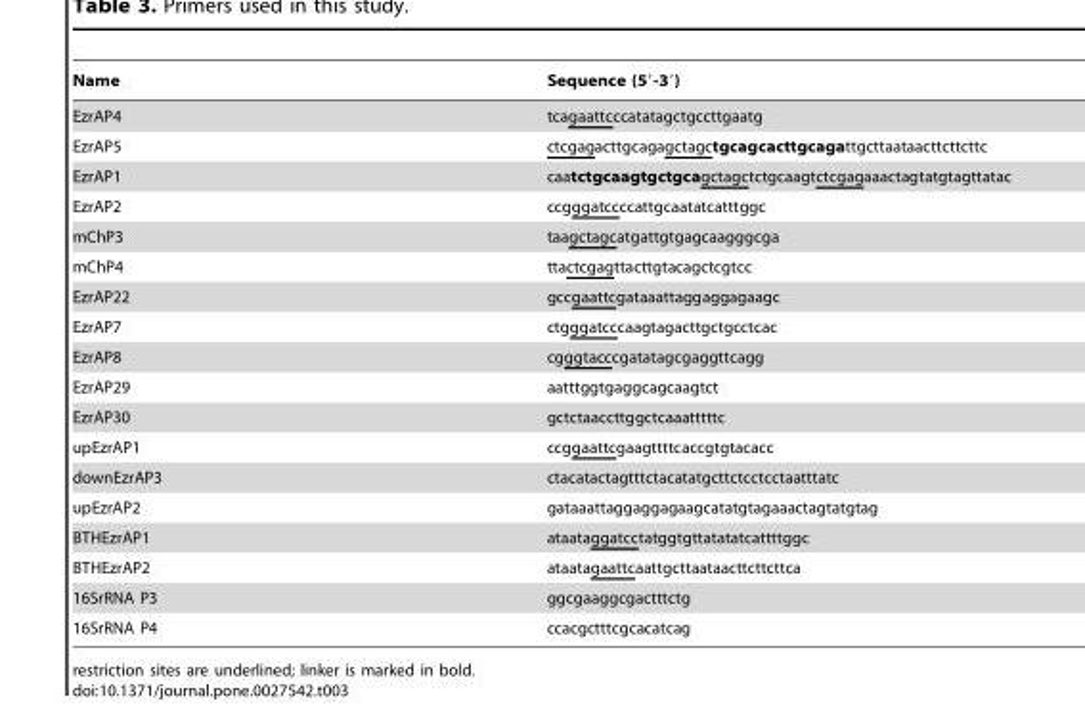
<table><thead><tr><td>Name</td><td>Sequence (5′-3′)</td></tr></thead><tbody><tr><td>EzrAP4</td><td>tcagaattcccatatagctgccttgaatg</td></tr><tr><td>EzrAP5</td><td>ctcgagacttgcagagctagctgcagcacttgcagattgcttaataacttcttcttc</td></tr><tr><td>EzrAP1</td><td>caatctgcaagtgctgcagctagctctgcaagtctcgagaaactagtatgtagttatac</td></tr><tr><td>EzrAP2</td><td>ccgggatccccattgcaatatcatttggc</td></tr><tr><td>mChP3</td><td>taagctagcatgattgtgagcaagggcga</td></tr><tr><td>mChP4</td><td>ttactcgagttacttgtacagctcgtcc</td></tr><tr><td>EzrAP22</td><td>gccgaattcgataaattaggaggagaagc</td></tr><tr><td>EzrAP7</td><td>ctgggatcccaagtagacttgctgcctcac</td></tr><tr><td>EzrAP8</td><td>cgggtacccgatatagcgaggttcagg</td></tr><tr><td>EzrAP29</td><td>aatttggtgaggcagcaagtct</td></tr><tr><td>EzrAP30</td><td>gctctaaccttggctcaaatttttc</td></tr><tr><td>upEzrAP1</td><td>ccggaattcgaagttttcaccgtgtacacc</td></tr><tr><td>downEzrAP3</td><td>ctacatactagtttctacatatgcttctcctcctaatttatc</td></tr><tr><td>upEzrAP2</td><td>gataaattaggaggagaagcatatgtagaaactagtatgtag</td></tr><tr><td>BTHEzrAP1</td><td>ataataggatcctatggtgttatatatcattttggc</td></tr><tr><td>BTHEzrAP2</td><td>ataatagaattcaattgcttaataacttcttcttca</td></tr><tr><td>16SrRNA P3</td><td>ggcgaaggcgactttctg</td></tr><tr><td>16SrRNA P4</td><td>ccacgctttcgcacatcag</td></tr></tbody></table>